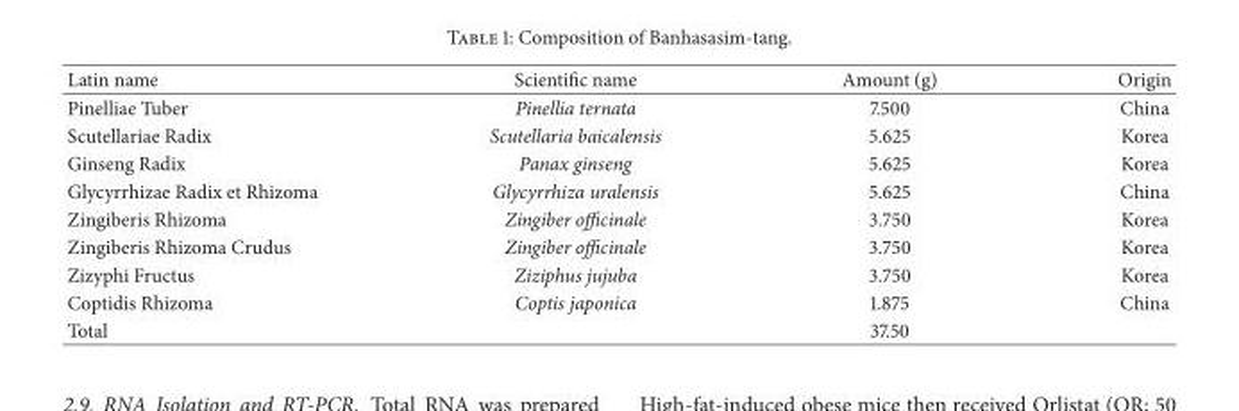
<table><thead><tr><td>Latin name</td><td>Scientific name</td><td>Amount (g)</td><td>Origin</td></tr></thead><tbody><tr><td>Pinelliae Tuber</td><td>Pinellia ternata</td><td>7.500</td><td>China</td></tr><tr><td>Scutellariae Radix</td><td>Scutellaria baicalensis</td><td>5.625</td><td>Korea</td></tr><tr><td>Ginseng Radix</td><td>Panax ginseng</td><td>5.625</td><td>Korea</td></tr><tr><td>Glycyrrhizae Radix et Rhizoma</td><td>Glycyrrhiza uralensis</td><td>5.625</td><td>China</td></tr><tr><td>Zingiberis Rhizoma</td><td>Zingiber officinale</td><td>3.750</td><td>Korea</td></tr><tr><td>Zingiberis Rhizoma Crudus</td><td>Zingiber officinale</td><td>3.750</td><td>Korea</td></tr><tr><td>Zizyphi Fructus</td><td>Ziziphus jujuba</td><td>3.750</td><td>Korea</td></tr><tr><td>Coptidis Rhizoma</td><td>Coptis japonica</td><td>1.875</td><td>China</td></tr><tr><td>Total</td><td></td><td>37.50</td><td></td></tr></tbody></table>